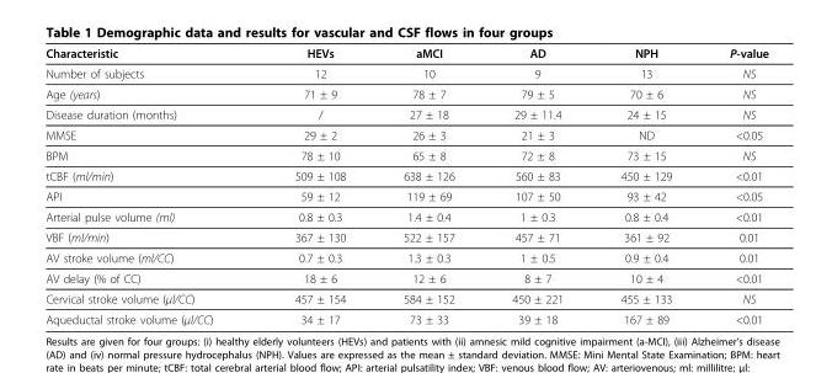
<table><thead><tr><td>Characteristic</td><td>HEVs</td><td>aMCI</td><td>AD</td><td>NPH</td><td>P-value</td></tr></thead><tbody><tr><td>Number of subjects</td><td>12</td><td>10</td><td>9</td><td>13</td><td>NS</td></tr><tr><td>Age (years)</td><td>71 ± 9</td><td>78 ± 7</td><td>79 ± 5</td><td>70 ± 6</td><td>NS</td></tr><tr><td>Disease duration (months)</td><td>/</td><td>27 ± 18</td><td>29 ± 11.4</td><td>24 ± 15</td><td>NS</td></tr><tr><td>MMSE</td><td>29 ± 2</td><td>26 ± 3</td><td>21 ± 3</td><td>ND</td><td>&lt;0.05</td></tr><tr><td>BPM</td><td>78 ± 10</td><td>65 ± 8</td><td>72 ± 8</td><td>73 ± 15</td><td>NS</td></tr><tr><td>tCBF (ml/min)</td><td>509 ± 108</td><td>638 ± 126</td><td>560 ± 83</td><td>450 ± 129</td><td>&lt;0.01</td></tr><tr><td>API</td><td>59 ± 12</td><td>119 ± 69</td><td>107 ± 50</td><td>93 ± 42</td><td>&lt;0.05</td></tr><tr><td>Arterial pulse volume (ml)</td><td>0.8 ± 0.3</td><td>1.4 ± 0.4</td><td>1 ± 0.3</td><td>0.8 ± 0.4</td><td>&lt;0.01</td></tr><tr><td>VBF (ml/min)</td><td>367 ± 130</td><td>522 ± 157</td><td>457 ± 71</td><td>361 ± 92</td><td>0.01</td></tr><tr><td>AV stroke volume (ml/CC)</td><td>0.7 ± 0.3</td><td>1.3 ± 0.3</td><td>1 ± 0.5</td><td>0.9 ± 0.4</td><td>0.01</td></tr><tr><td>AV delay (% of CC)</td><td>18 ± 6</td><td>12 ± 6</td><td>8 ± 7</td><td>10 ± 4</td><td>&lt;0.01</td></tr><tr><td>Cervical stroke volume (μl/CC)</td><td>457 ± 154</td><td>584 ± 152</td><td>450 ± 221</td><td>455 ± 133</td><td>NS</td></tr><tr><td>Aqueductal stroke volume (μl/CC)</td><td>34 ± 17</td><td>73 ± 33</td><td>39 ± 18</td><td>167 ± 89</td><td>&lt;0.01</td></tr></tbody></table>